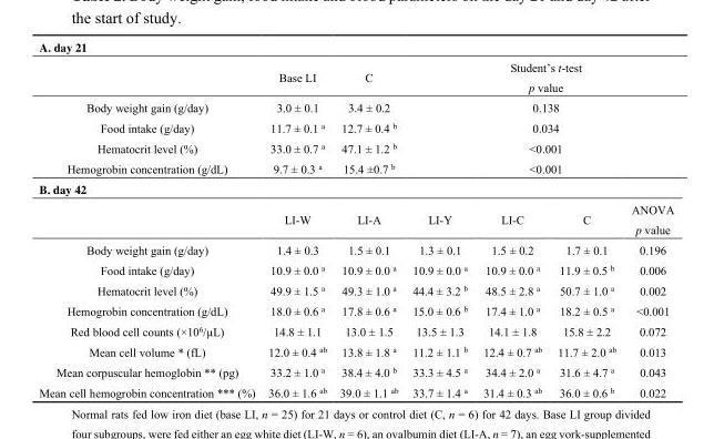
<table><tbody><tr><td colspan="7">A. day 21</td></tr><tr><td></td><td>Base LI</td><td>C</td><td colspan="4">Student’s t-test p value</td></tr><tr><td>Body weight gain (g/day)</td><td>3.0 ± 0.1</td><td>3.4 ± 0.2</td><td colspan="4">0.138</td></tr><tr><td>Food intake (g/day)</td><td>11.7 ± 0.1 <sup>a</sup></td><td>12.7 ± 0.4 <sup>b</sup></td><td colspan="4">0.034</td></tr><tr><td>Hematocrit level (%)</td><td>33.0 ± 0.7 <sup>a</sup></td><td>47.1 ± 1.2 <sup>b</sup></td><td colspan="4">&lt;0.001</td></tr><tr><td>Hemogrobin concentration (g/dL)</td><td>9.7 ± 0.3 <sup>a</sup></td><td>15.4 ±0.7 <sup>b</sup></td><td colspan="4">&lt;0.001</td></tr><tr><td colspan="7">B. day 42</td></tr><tr><td></td><td>LI-W</td><td>LI-A</td><td>LI-Y</td><td>LI-C</td><td>C</td><td>ANOVA p value</td></tr><tr><td>Body weight gain (g/day)</td><td>1.4 ± 0.3</td><td>1.5 ± 0.1</td><td>1.3 ± 0.1</td><td>1.5 ± 0.2</td><td>1.7 ± 0.1</td><td>0.196</td></tr><tr><td>Food intake (g/day)</td><td>10.9 ± 0.0 <sup>a</sup></td><td>10.9 ± 0.0 <sup>a</sup></td><td>10.9 ± 0.0 <sup>a</sup></td><td>10.9 ± 0.0 <sup>a</sup></td><td>11.9 ± 0.5 <sup>b</sup></td><td>0.006</td></tr><tr><td>Hematocrit level (%)</td><td>49.9 ± 1.5 <sup>a</sup></td><td>49.3 ± 1.0 <sup>a</sup></td><td>44.4 ± 3.2 <sup>b</sup></td><td>48.5 ± 2.8 <sup>a</sup></td><td>50.7 ± 1.0 <sup>a</sup></td><td>0.002</td></tr><tr><td>Hemogrobin concentration (g/dL)</td><td>18.0 ± 0.6 <sup>a</sup></td><td>17.8 ± 0.6 <sup>a</sup></td><td>15.0 ± 0.6 <sup>b</sup></td><td>17.4 ± 1.0 <sup>a</sup></td><td>18.2 ± 0.5 <sup>a</sup></td><td>&lt;0.001</td></tr><tr><td>Red blood cell counts (×10<sup>6</sup>/µL)</td><td>14.8 ± 1.1</td><td>13.0 ± 1.5</td><td>13.5 ± 1.3</td><td>14.1 ± 1.8</td><td>15.8 ± 2.2</td><td>0.072</td></tr><tr><td>Mean cell volume * (fL)</td><td>12.0 ± 0.4 <sup>ab</sup></td><td>13.8 ± 1.8 <sup>a</sup></td><td>11.2 ± 1.1 <sup>b</sup></td><td>12.4 ± 0.7 <sup>ab</sup></td><td>11.7 ± 2.0 <sup>ab</sup></td><td>0.013</td></tr><tr><td>Mean corpuscular hemoglobin ** (pg)</td><td>33.2 ± 1.0 <sup>a</sup></td><td>38.4 ± 4.0 <sup>b</sup></td><td>33.3 ± 4.5 <sup>a</sup></td><td>34.4 ± 2.0 <sup>a</sup></td><td>31.6 ± 4.7 <sup>a</sup></td><td>0.043</td></tr><tr><td>Mean cell hemogrobin concentration *** (%)</td><td>36.0 ± 1.6 <sup>ab</sup></td><td>39.0 ± 1.1 <sup>ab</sup></td><td>33.7 ± 1.4 <sup>a</sup></td><td>31.4 ± 0.3 <sup>ab</sup></td><td>36.0 ± 0.6 <sup>b</sup></td><td>0.022</td></tr></tbody></table>